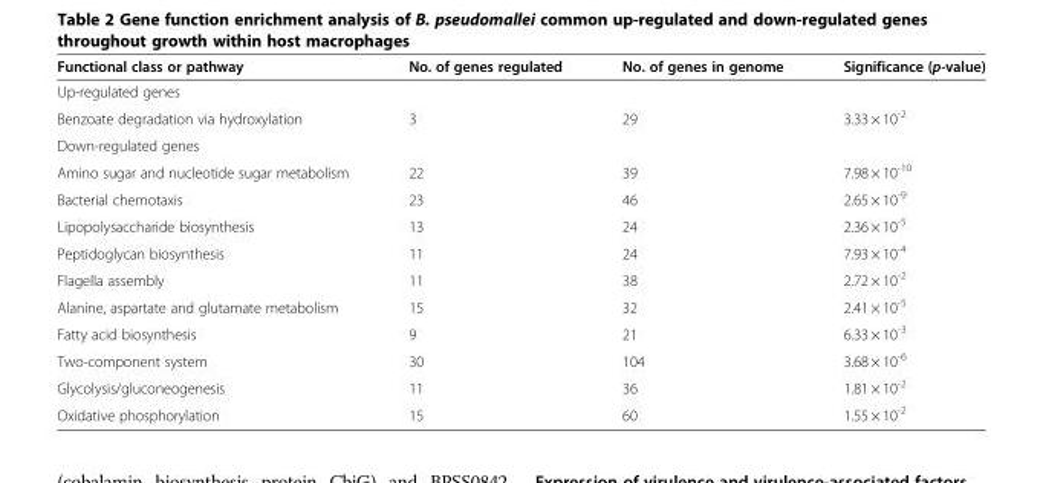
<table><thead><tr><td>Functional class or pathway</td><td>No. of genes regulated</td><td>No. of genes in genome</td><td>Significance (p-value)</td></tr></thead><tbody><tr><td colspan="4">Up-regulated genes</td></tr><tr><td>Benzoate degradation via hydroxylation</td><td>3</td><td>29</td><td>3.33 × 10<sup>-2</sup></td></tr><tr><td colspan="4">Down-regulated genes</td></tr><tr><td>Amino sugar and nucleotide sugar metabolism</td><td>22</td><td>39</td><td>7.98 × 10<sup>-10</sup></td></tr><tr><td>Bacterial chemotaxis</td><td>23</td><td>46</td><td>2.65 × 10<sup>-9</sup></td></tr><tr><td>Lipopolysaccharide biosynthesis</td><td>13</td><td>24</td><td>2.36 × 10<sup>-5</sup></td></tr><tr><td>Peptidoglycan biosynthesis</td><td>11</td><td>24</td><td>7.93 × 10<sup>-4</sup></td></tr><tr><td>Flagella assembly</td><td>11</td><td>38</td><td>2.72 × 10<sup>-2</sup></td></tr><tr><td>Alanine, aspartate and glutamate metabolism</td><td>15</td><td>32</td><td>2.41 × 10<sup>-5</sup></td></tr><tr><td>Fatty acid biosynthesis</td><td>9</td><td>21</td><td>6.33 × 10<sup>-3</sup></td></tr><tr><td>Two-component system</td><td>30</td><td>104</td><td>3.68 × 10<sup>-6</sup></td></tr><tr><td>Glycolysis/gluconeogenesis</td><td>11</td><td>36</td><td>1.81 × 10<sup>-2</sup></td></tr><tr><td>Oxidative phosphorylation</td><td>15</td><td>60</td><td>1.55 × 10<sup>-2</sup></td></tr></tbody></table>